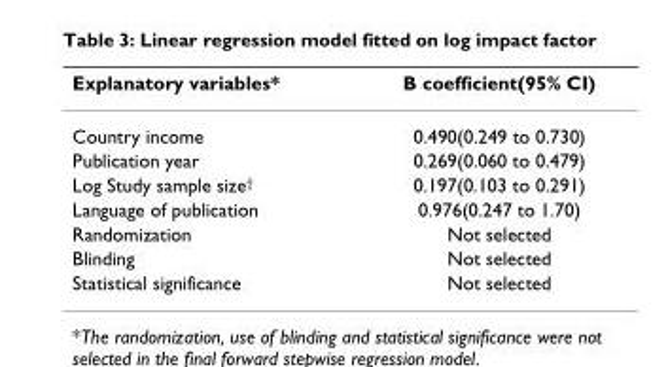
<table><thead><tr><td>Explanatory variables*</td><td>B coefficient(95% CI)</td></tr></thead><tbody><tr><td>Country income</td><td>0.490(0.249 to 0.730)</td></tr><tr><td>Publication year</td><td>0.269(0.060 to 0.479)</td></tr><tr><td>Log Study sample size<sup>†</sup></td><td>0.197(0.103 to 0.291)</td></tr><tr><td>Language of publication</td><td>0.976(0.247 to 1.70)</td></tr><tr><td>Randomization</td><td>Not selected</td></tr><tr><td>Blinding</td><td>Not selected</td></tr><tr><td>Statistical significance</td><td>Not selected</td></tr></tbody></table>